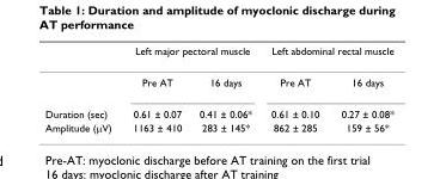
<table><thead><tr><td rowspan="2"></td><td colspan="2">Left major pectoral muscle</td><td colspan="2">Left abdominal rectal muscle</td></tr><tr><td>Pre AT</td><td>16 days</td><td>Pre AT</td><td>16 days</td></tr></thead><tbody><tr><td>Duration (sec)</td><td>0.61 ± 0.07</td><td>0.41 ± 0.06*</td><td>0.61 ± 0.10</td><td>0.27 ± 0.08*</td></tr><tr><td>Amplitude (μV)</td><td>1163 ± 410</td><td>283 ± 145*</td><td>862 ± 285</td><td>159 ± 56*</td></tr></tbody></table>